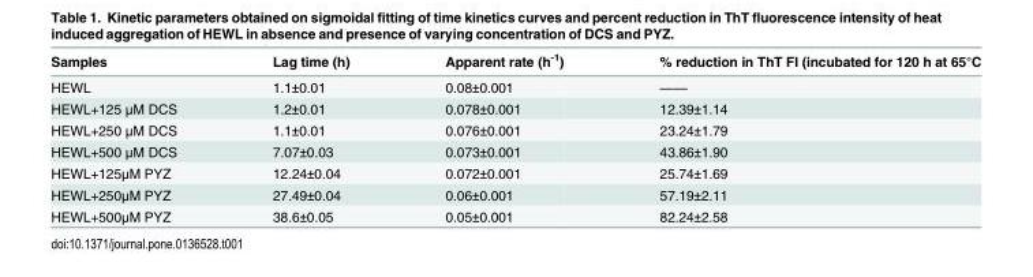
<table><thead><tr><td>Samples</td><td>Lag time (h)</td><td>Apparent rate (h<sup>-1</sup>)</td><td>% reduction in ThT FI (incubated for 120 h at 65°C</td></tr></thead><tbody><tr><td>HEWL</td><td>1.1±0.01</td><td>0.08±0.001</td><td>——</td></tr><tr><td>HEWL+125 μM DCS</td><td>1.2±0.01</td><td>0.078±0.001</td><td>12.39±1.14</td></tr><tr><td>HEWL+250 μM DCS</td><td>1.1±0.01</td><td>0.076±0.001</td><td>23.24±1.79</td></tr><tr><td>HEWL+500 μM DCS</td><td>7.07±0.03</td><td>0.073±0.001</td><td>43.86±1.90</td></tr><tr><td>HEWL+125μM PYZ</td><td>12.24±0.04</td><td>0.072±0.001</td><td>25.74±1.69</td></tr><tr><td>HEWL+250μM PYZ</td><td>27.49±0.04</td><td>0.06±0.001</td><td>57.19±2.11</td></tr><tr><td>HEWL+500μM PYZ</td><td>38.6±0.05</td><td>0.05±0.001</td><td>82.24±2.58</td></tr></tbody></table>